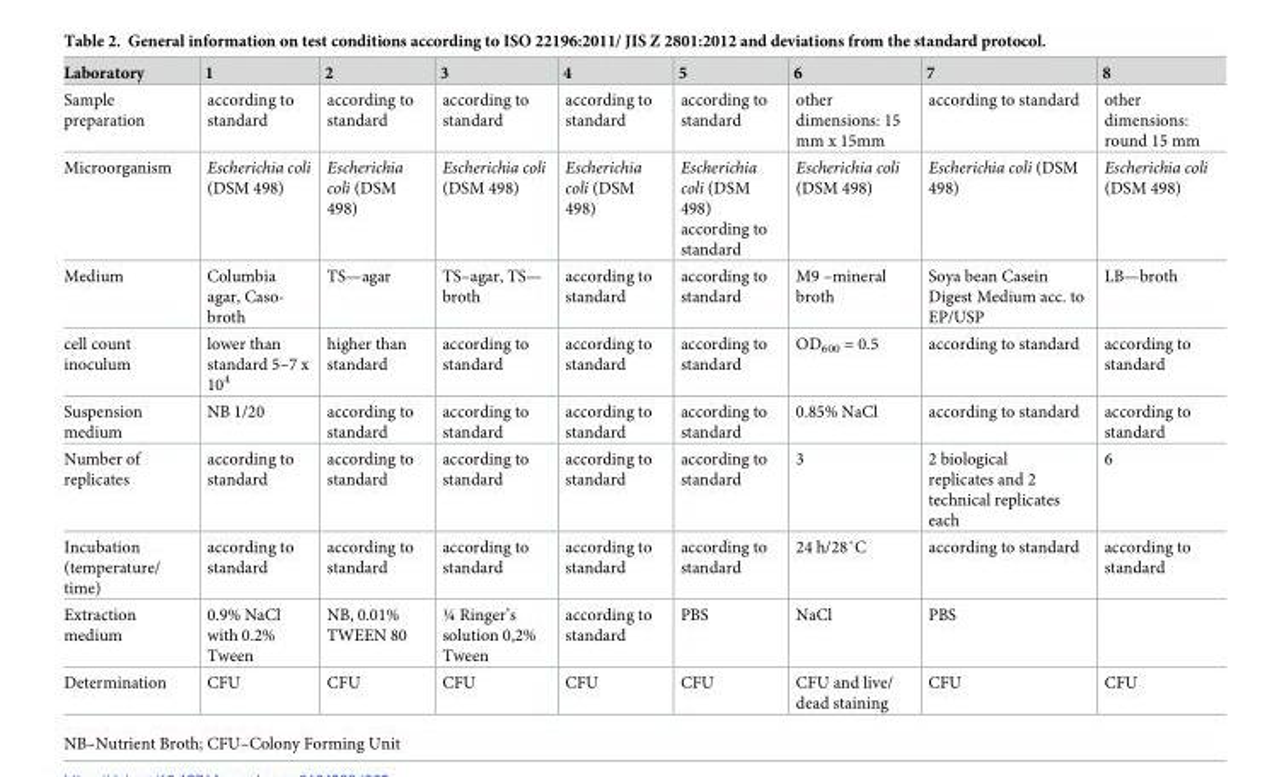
<table><thead><tr><td>Laboratory</td><td>1</td><td>2</td><td>3</td><td>4</td><td>5</td><td>6</td><td>7</td><td>8</td></tr></thead><tbody><tr><td>Sample preparation</td><td>according to standard</td><td>according to standard</td><td>according to standard</td><td>according to standard</td><td>according to standard</td><td>other dimensions: 15 mm x 15mm</td><td>according to standard</td><td>other dimensions: round 15 mm</td></tr><tr><td>Microorganism</td><td>Escherichia coli (DSM 498)</td><td>Escherichia coli (DSM 498)</td><td>Escherichia coli (DSM 498)</td><td>Escherichia coli (DSM 498)</td><td>Escherichia coli (DSM 498) according to standard</td><td>Escherichia coli (DSM 498)</td><td>Escherichia coli (DSM 498)</td><td>Escherichia coli (DSM 498)</td></tr><tr><td>Medium</td><td>Columbia agar, Caso- broth</td><td>TS—agar</td><td>TS–agar, TS— broth</td><td>according to standard</td><td>according to standard</td><td>M9 –mineral broth</td><td>Soya bean Casein Digest Medium acc. to EP/USP</td><td>LB—broth</td></tr><tr><td>cell count inoculum</td><td>lower than standard 5–7 x 10<sup>4</sup></td><td>higher than standard</td><td>according to standard</td><td>according to standard</td><td>according to standard</td><td>OD<sub>600</sub> = 0.5</td><td>according to standard</td><td>according to standard</td></tr><tr><td>Suspension medium</td><td>NB 1/20</td><td>according to standard</td><td>according to standard</td><td>according to standard</td><td>according to standard</td><td>0.85% NaCl</td><td>according to standard</td><td>according to standard</td></tr><tr><td>Number of replicates</td><td>according to standard</td><td>according to standard</td><td>according to standard</td><td>according to standard</td><td>according to standard</td><td>3</td><td>2 biological replicates and 2 technical replicates each</td><td>6</td></tr><tr><td>Incubation (temperature/ time)</td><td>according to standard</td><td>according to standard</td><td>according to standard</td><td>according to standard</td><td>according to standard</td><td>24 h/28˚C</td><td>according to standard</td><td>according to standard</td></tr><tr><td>Extraction medium</td><td>0.9% NaCl with 0.2% Tween</td><td>NB, 0.01% TWEEN 80</td><td>¼ Ringer’s solution 0,2% Tween</td><td>according to standard</td><td>PBS</td><td>NaCl</td><td>PBS</td><td></td></tr><tr><td>Determination</td><td>CFU</td><td>CFU</td><td>CFU</td><td>CFU</td><td>CFU</td><td>CFU and live/ dead staining</td><td>CFU</td><td>CFU</td></tr></tbody></table>